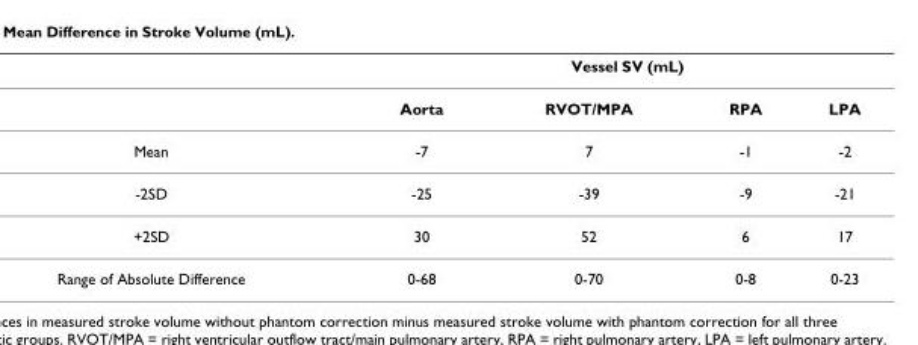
<table><thead><tr><td rowspan="2"></td><td colspan="4">Vessel SV (mL)</td></tr><tr><td>Aorta</td><td>RVOT/MPA</td><td>RPA</td><td>LPA</td></tr></thead><tbody><tr><td>Mean</td><td>-7</td><td>7</td><td>-1</td><td>-2</td></tr><tr><td>-2SD</td><td>-25</td><td>-39</td><td>-9</td><td>-21</td></tr><tr><td>+2SD</td><td>30</td><td>52</td><td>6</td><td>17</td></tr><tr><td>Range of Absolute Difference</td><td>0-68</td><td>0-70</td><td>0-8</td><td>0-23</td></tr></tbody></table>